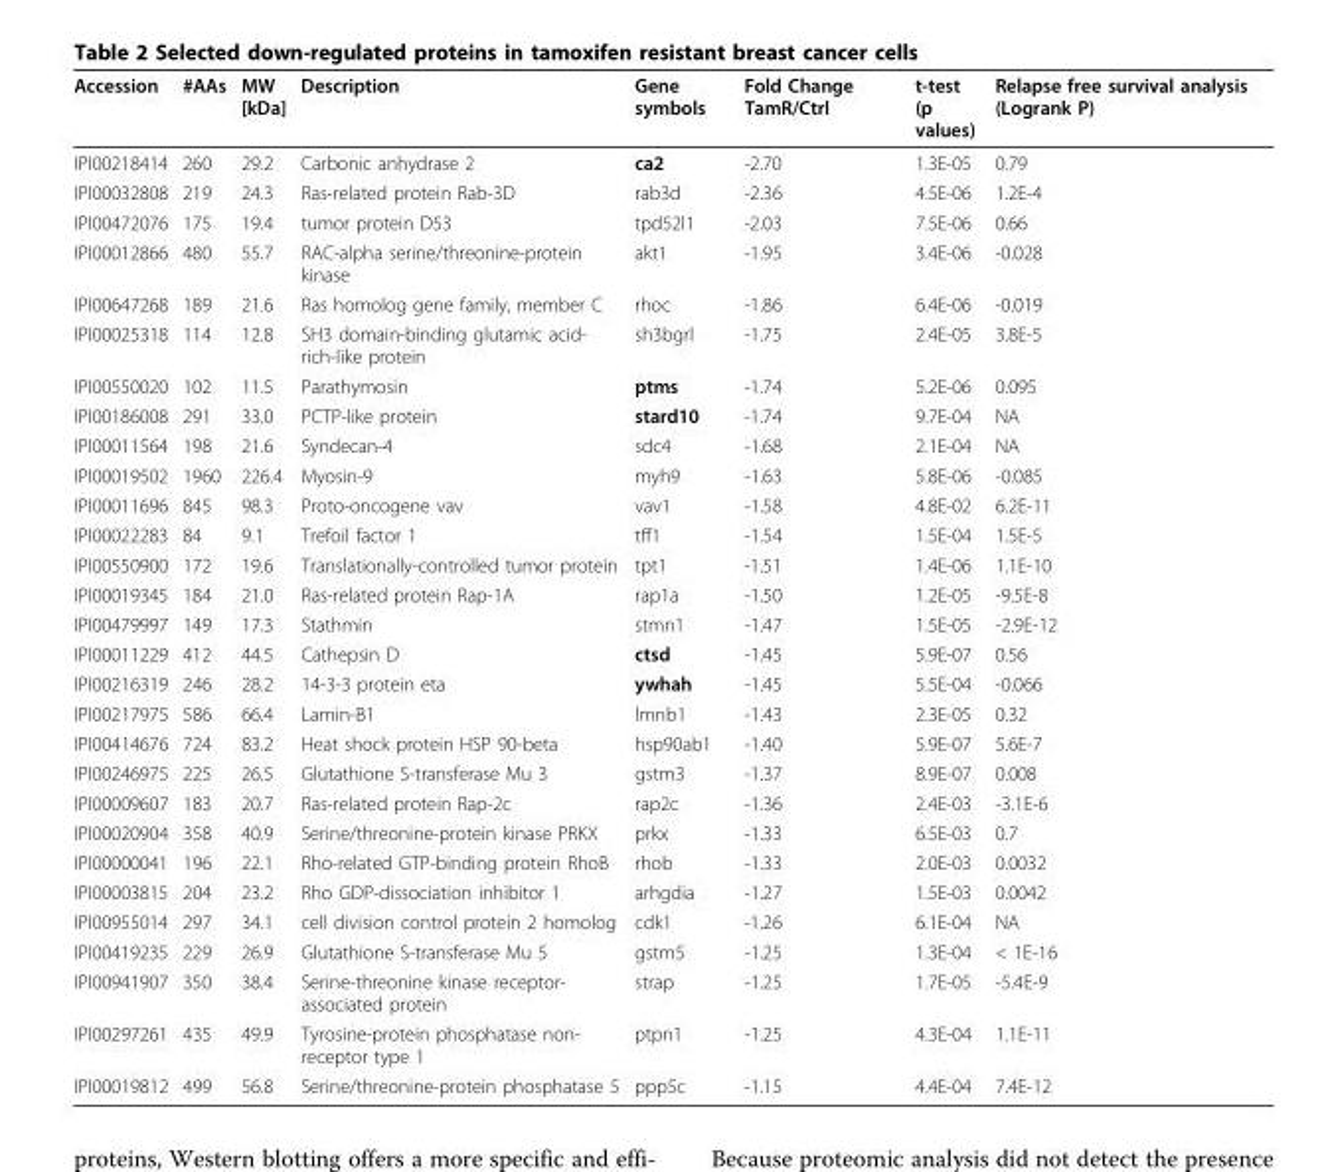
<table><thead><tr><td>Accession</td><td>#AAs</td><td>MW [kDa]</td><td>Description</td><td>Gene symbols</td><td>Fold Change TamR/Ctrl</td><td>t-test (p values)</td><td>Relapse free survival analysis (Logrank P)</td></tr></thead><tbody><tr><td>IPI00218414</td><td>260</td><td>29.2</td><td>Carbonic anhydrase 2</td><td>ca2</td><td>-2.70</td><td>1.3E-05</td><td>0.79</td></tr><tr><td>IPI00032808</td><td>219</td><td>24.3</td><td>Ras-related protein Rab-3D</td><td>rab3d</td><td>-2.36</td><td>4.5E-06</td><td>1.2E-4</td></tr><tr><td>IPI00472076</td><td>175</td><td>19.4</td><td>tumor protein D53</td><td>tpd52l1</td><td>-2.03</td><td>7.5E-06</td><td>0.66</td></tr><tr><td>IPI00012866</td><td>480</td><td>55.7</td><td>RAC-alpha serine/threonine-protein kinase</td><td>akt1</td><td>-1.95</td><td>3.4E-06</td><td>-0.028</td></tr><tr><td>IPI00647268</td><td>189</td><td>21.6</td><td>Ras homolog gene family, member C</td><td>rhoc</td><td>-1.86</td><td>6.4E-06</td><td>-0.019</td></tr><tr><td>IPI00025318</td><td>114</td><td>12.8</td><td>SH3 domain-binding glutamic acid- rich-like protein</td><td>sh3bgrl</td><td>-1.75</td><td>2.4E-05</td><td>3.8E-5</td></tr><tr><td>IPI00550020</td><td>102</td><td>11.5</td><td>Parathymosin</td><td>ptms</td><td>-1.74</td><td>5.2E-06</td><td>0.095</td></tr><tr><td>IPI00186008</td><td>291</td><td>33.0</td><td>PCTP-like protein</td><td>stard10</td><td>-1.74</td><td>9.7E-04</td><td>NA</td></tr><tr><td>IPI00011564</td><td>198</td><td>21.6</td><td>Syndecan-4</td><td>sdc4</td><td>-1.68</td><td>2.1E-04</td><td>NA</td></tr><tr><td>IPI00019502</td><td>1960</td><td>226.4</td><td>Myosin-9</td><td>myh9</td><td>-1.63</td><td>5.8E-06</td><td>-0.085</td></tr><tr><td>IPI00011696</td><td>845</td><td>98.3</td><td>Proto-oncogene vav</td><td>vav1</td><td>-1.58</td><td>4.8E-02</td><td>6.2E-11</td></tr><tr><td>IPI00022283</td><td>84</td><td>9.1</td><td>Trefoil factor 1</td><td>tff1</td><td>-1.54</td><td>1.5E-04</td><td>1.5E-5</td></tr><tr><td>IPI00550900</td><td>172</td><td>19.6</td><td>Translationally-controlled tumor protein</td><td>tpt1</td><td>-1.51</td><td>1.4E-06</td><td>1.1E-10</td></tr><tr><td>IPI00019345</td><td>184</td><td>21.0</td><td>Ras-related protein Rap-1A</td><td>rap1a</td><td>-1.50</td><td>1.2E-05</td><td>-9.5E-8</td></tr><tr><td>IPI00479997</td><td>149</td><td>17.3</td><td>Stathmin</td><td>stmn1</td><td>-1.47</td><td>1.5E-05</td><td>-2.9E-12</td></tr><tr><td>IPI00011229</td><td>412</td><td>44.5</td><td>Cathepsin D</td><td>ctsd</td><td>-1.45</td><td>5.9E-07</td><td>0.56</td></tr><tr><td>IPI00216319</td><td>246</td><td>28.2</td><td>14-3-3 protein eta</td><td>ywhah</td><td>-1.45</td><td>5.5E-04</td><td>-0.066</td></tr><tr><td>IPI00217975</td><td>586</td><td>66.4</td><td>Lamin-B1</td><td>lmnb1</td><td>-1.43</td><td>2.3E-05</td><td>0.32</td></tr><tr><td>IPI00414676</td><td>724</td><td>83.2</td><td>Heat shock protein HSP 90-beta</td><td>hsp90ab1</td><td>-1.40</td><td>5.9E-07</td><td>5.6E-7</td></tr><tr><td>IPI00246975</td><td>225</td><td>26.5</td><td>Glutathione S-transferase Mu 3</td><td>gstm3</td><td>-1.37</td><td>8.9E-07</td><td>0.008</td></tr><tr><td>IPI00009607</td><td>183</td><td>20.7</td><td>Ras-related protein Rap-2c</td><td>rap2c</td><td>-1.36</td><td>2.4E-03</td><td>-3.1E-6</td></tr><tr><td>IPI00020904</td><td>358</td><td>40.9</td><td>Serine/threonine-protein kinase PRKX</td><td>prkx</td><td>-1.33</td><td>6.5E-03</td><td>0.7</td></tr><tr><td>IPI00000041</td><td>196</td><td>22.1</td><td>Rho-related GTP-binding protein RhoB</td><td>rhob</td><td>-1.33</td><td>2.0E-03</td><td>0.0032</td></tr><tr><td>IPI00003815</td><td>204</td><td>23.2</td><td>Rho GDP-dissociation inhibitor 1</td><td>arhgdia</td><td>-1.27</td><td>1.5E-03</td><td>0.0042</td></tr><tr><td>IPI00955014</td><td>297</td><td>34.1</td><td>cell division control protein 2 homolog</td><td>cdk1</td><td>-1.26</td><td>6.1E-04</td><td>NA</td></tr><tr><td>IPI00419235</td><td>229</td><td>26.9</td><td>Glutathione S-transferase Mu 5</td><td>gstm5</td><td>-1.25</td><td>1.3E-04</td><td>&lt; 1E-16</td></tr><tr><td>IPI00941907</td><td>350</td><td>38.4</td><td>Serine-threonine kinase receptor- associated protein</td><td>strap</td><td>-1.25</td><td>1.7E-05</td><td>-5.4E-9</td></tr><tr><td>IPI00297261</td><td>435</td><td>49.9</td><td>Tyrosine-protein phosphatase non- receptor type 1</td><td>ptpn1</td><td>-1.25</td><td>4.3E-04</td><td>1.1E-11</td></tr><tr><td>IPI00019812</td><td>499</td><td>56.8</td><td>Serine/threonine-protein phosphatase 5</td><td>ppp5c</td><td>-1.15</td><td>4.4E-04</td><td>7.4E-12</td></tr></tbody></table>